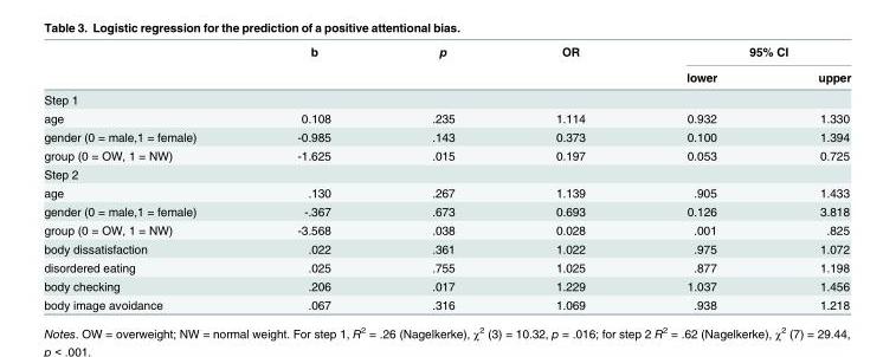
<table><thead><tr><td rowspan="2"></td><td rowspan="2">b</td><td rowspan="2">p</td><td rowspan="2">OR</td><td colspan="2">95% CI</td></tr><tr><td>lower</td><td>upper</td></tr></thead><tbody><tr><td colspan="6">Step 1</td></tr><tr><td>age</td><td>0.108</td><td>.235</td><td>1.114</td><td>0.932</td><td>1.330</td></tr><tr><td>gender (0 = male,1 = female)</td><td>-0.985</td><td>.143</td><td>0.373</td><td>0.100</td><td>1.394</td></tr><tr><td>group (0 = OW, 1 = NW)</td><td>-1.625</td><td>.015</td><td>0.197</td><td>0.053</td><td>0.725</td></tr><tr><td colspan="6">Step 2</td></tr><tr><td>age</td><td>.130</td><td>.267</td><td>1.139</td><td>.905</td><td>1.433</td></tr><tr><td>gender (0 = male,1 = female)</td><td>-.367</td><td>.673</td><td>0.693</td><td>0.126</td><td>3.818</td></tr><tr><td>group (0 = OW, 1 = NW)</td><td>-3.568</td><td>.038</td><td>0.028</td><td>.001</td><td>.825</td></tr><tr><td>body dissatisfaction</td><td>.022</td><td>.361</td><td>1.022</td><td>.975</td><td>1.072</td></tr><tr><td>disordered eating</td><td>.025</td><td>.755</td><td>1.025</td><td>.877</td><td>1.198</td></tr><tr><td>body checking</td><td>.206</td><td>.017</td><td>1.229</td><td>1.037</td><td>1.456</td></tr><tr><td>body image avoidance</td><td>.067</td><td>.316</td><td>1.069</td><td>.938</td><td>1.218</td></tr></tbody></table>